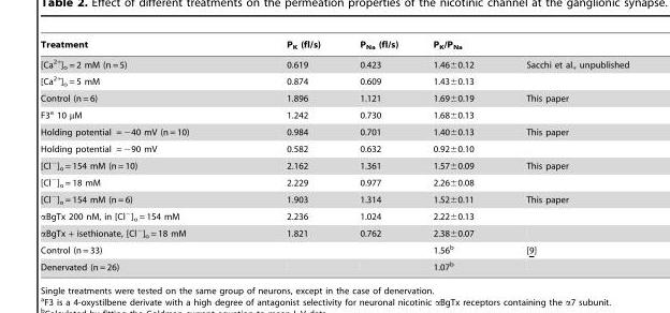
<table><thead><tr><td>Treatment</td><td>P<sub>K</sub> (fl/s)</td><td>P<sub>Na</sub> (fl/s)</td><td>P<sub>K</sub>/P<sub>Na</sub></td><td></td></tr></thead><tbody><tr><td>[Ca<sup>2+</sup>]<sub>o</sub> = 2 mM (n = 5)</td><td>0.619</td><td>0.423</td><td>1.46±0.12</td><td>Sacchi et al., unpublished</td></tr><tr><td>[Ca<sup>2+</sup>]<sub>o</sub> = 5 mM</td><td>0.874</td><td>0.609</td><td>1.43±0.13</td><td></td></tr><tr><td>Control (n = 6)</td><td>1.896</td><td>1.121</td><td>1.69±0.19</td><td>This paper</td></tr><tr><td>F3<sup>a</sup> 10 µM</td><td>1.242</td><td>0.730</td><td>1.68±0.13</td><td></td></tr><tr><td>Holding potential = −40 mV (n = 10)</td><td>0.984</td><td>0.701</td><td>1.40±0.13</td><td>This paper</td></tr><tr><td>Holding potential = −90 mV</td><td>0.582</td><td>0.632</td><td>0.92±0.10</td><td></td></tr><tr><td>[Cl<sup>−</sup>]<sub>o</sub> = 154 mM (n = 10)</td><td>2.162</td><td>1.361</td><td>1.57±0.09</td><td>This paper</td></tr><tr><td>[Cl<sup>−</sup>]<sub>o</sub> = 18 mM</td><td>2.229</td><td>0.977</td><td>2.26±0.08</td><td></td></tr><tr><td>[Cl<sup>−</sup>]<sub>o</sub> = 154 mM (n = 6)</td><td>1.903</td><td>1.314</td><td>1.52±0.11</td><td>This paper</td></tr><tr><td>αBgTx 200 nM, in [Cl<sup>−</sup>]<sub>o</sub> = 154 mM</td><td>2.236</td><td>1.024</td><td>2.22±0.13</td><td></td></tr><tr><td>αBgTx + isethionate, [Cl<sup>−</sup>]<sub>o</sub> = 18 mM</td><td>1.821</td><td>0.762</td><td>2.38±0.07</td><td></td></tr><tr><td>Control (n = 33)</td><td></td><td></td><td>1.56<sup>b</sup></td><td>[9]</td></tr><tr><td>Denervated (n = 26)</td><td></td><td></td><td>1.07<sup>b</sup></td><td></td></tr></tbody></table>